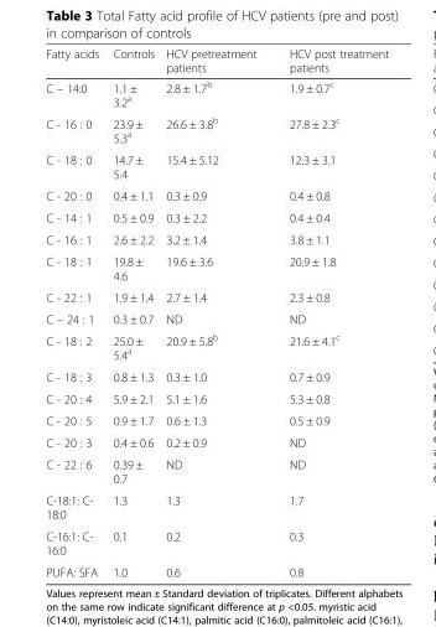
<table><thead><tr><td>Fatty acids</td><td>Controls</td><td>HCV pretreatment patients</td><td>HCV post treatment patients</td></tr></thead><tbody><tr><td>C – 14:0</td><td>1.1 ± 3.2<sup>a</sup></td><td>2.8 ± 1.7<sup>b</sup></td><td>1.9 ± 0.7<sup>c</sup></td></tr><tr><td>C - 16 : 0</td><td>23.9 ± 5.3<sup>a</sup></td><td>26.6 ± 3.8<sup>b</sup></td><td>27.8 ± 2.3<sup>c</sup></td></tr><tr><td>C - 18 : 0</td><td>14.7 ± 5.4</td><td>15.4 ± 5.12</td><td>12.3 ± 3.1</td></tr><tr><td>C - 20 : 0</td><td>0.4 ± 1.1</td><td>0.3 ± 0.9</td><td>0.4 ± 0.8</td></tr><tr><td>C - 14 : 1</td><td>0.5 ± 0.9</td><td>0.3 ± 2.2</td><td>0.4 ± 0.4</td></tr><tr><td>C - 16 : 1</td><td>2.6 ± 2.2</td><td>3.2 ± 1.4</td><td>3.8 ± 1.1</td></tr><tr><td>C - 18 : 1</td><td>19.8 ± 4.6</td><td>19.6 ± 3.6</td><td>20.9 ± 1.8</td></tr><tr><td>C - 22 : 1</td><td>1.9 ± 1.4</td><td>2.7 ± 1.4</td><td>2.3 ± 0.8</td></tr><tr><td>C – 24 : 1</td><td>0.3 ± 0.7</td><td>ND</td><td>ND</td></tr><tr><td>C - 18 : 2</td><td>25.0 ± 5.4<sup>a</sup></td><td>20.9 ± 5.8<sup>b</sup></td><td>21.6 ± 4.1<sup>c</sup></td></tr><tr><td>C - 18 : 3</td><td>0.8 ± 1.3</td><td>0.3 ± 1.0</td><td>0.7 ± 0.9</td></tr><tr><td>C - 20 : 4</td><td>5.9 ± 2.1</td><td>5.1 ± 1.6</td><td>5.3 ± 0.8</td></tr><tr><td>C - 20 : 5</td><td>0.9 ± 1.7</td><td>0.6 ± 1.3</td><td>0.5 ± 0.9</td></tr><tr><td>C - 20 : 3</td><td>0.4 ± 0.6</td><td>0.2 ± 0.9</td><td>ND</td></tr><tr><td>C - 22 : 6</td><td>0.39 ± 0.7</td><td>ND</td><td>ND</td></tr><tr><td>C-18:1: C- 18:0</td><td>1.3</td><td>1.3</td><td>1.7</td></tr><tr><td>C-16:1: C- 16:0</td><td>0.1</td><td>0.2</td><td>0.3</td></tr><tr><td>PUFA: SFA</td><td>1.0</td><td>0.6</td><td>0.8</td></tr></tbody></table>